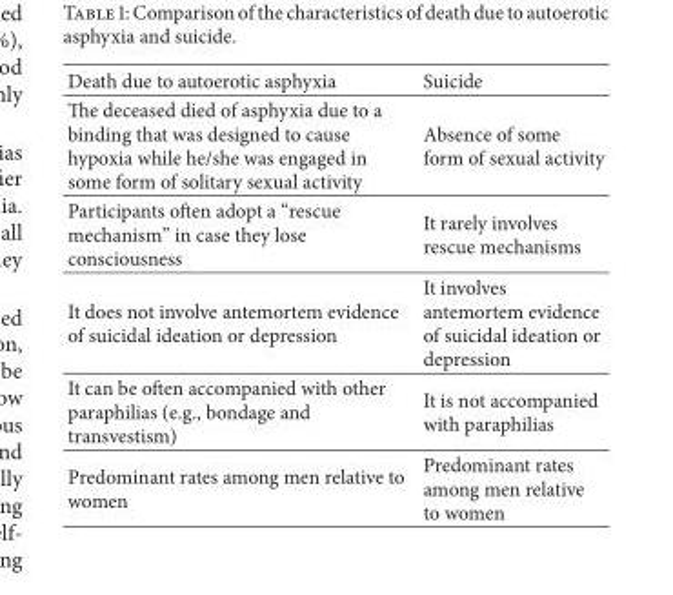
<table><thead><tr><td>Death due to autoerotic asphyxia</td><td>Suicide</td></tr></thead><tbody><tr><td>The deceased died of asphyxia due to a binding that was designed to cause hypoxia while he/she was engaged in some form of solitary sexual activity</td><td>Absence of some form of sexual activity</td></tr><tr><td>Participants often adopt a “rescue mechanism” in case they lose consciousness</td><td>It rarely involves rescue mechanisms</td></tr><tr><td>It does not involve antemortem evidence of suicidal ideation or depression</td><td>It involves antemortem evidence of suicidal ideation or depression</td></tr><tr><td>It can be often accompanied with other paraphilias (e.g., bondage and transvestism)</td><td>It is not accompanied with paraphilias</td></tr><tr><td>Predominant rates among men relative to women</td><td>Predominant rates among men relative to women</td></tr></tbody></table>